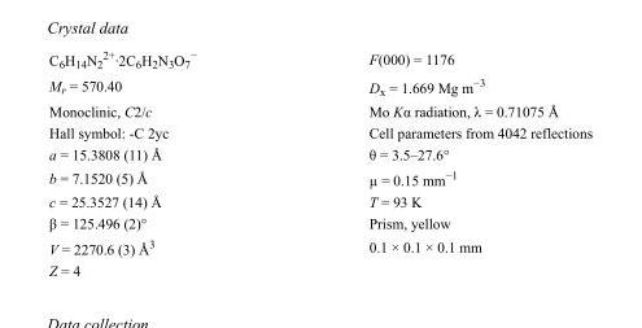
<table><tbody><tr><td>C<sub>6</sub>H<sub>14</sub>N<sub>2</sub> <sup>2+</sup>·2C<sub>6</sub>H<sub>2</sub>N<sub>3</sub>O<sub>7</sub> <sup>−</sup></td><td>F(000) = 1176</td></tr><tr><td>M<sub>r</sub> = 570.40</td><td>D<sub>x</sub> = 1.669 Mg m<sup>−3</sup></td></tr><tr><td>Monoclinic, C2/c</td><td>Mo Kα radiation, λ = 0.71075 Å</td></tr><tr><td>Hall symbol: -C 2yc</td><td>Cell parameters from 4042 reflections</td></tr><tr><td>a = 15.3808 (11) Å</td><td>θ = 3.5–27.6°</td></tr><tr><td>b = 7.1520 (5) Å</td><td>µ = 0.15 mm<sup>−1</sup></td></tr><tr><td>c = 25.3527 (14) Å</td><td>T = 93 K</td></tr><tr><td>β = 125.496 (2)°</td><td>Prism, yellow</td></tr><tr><td>V = 2270.6 (3) Å<sup>3</sup></td><td>0.1 × 0.1 × 0.1 mm</td></tr><tr><td>Z = 4</td><td></td></tr></tbody></table>